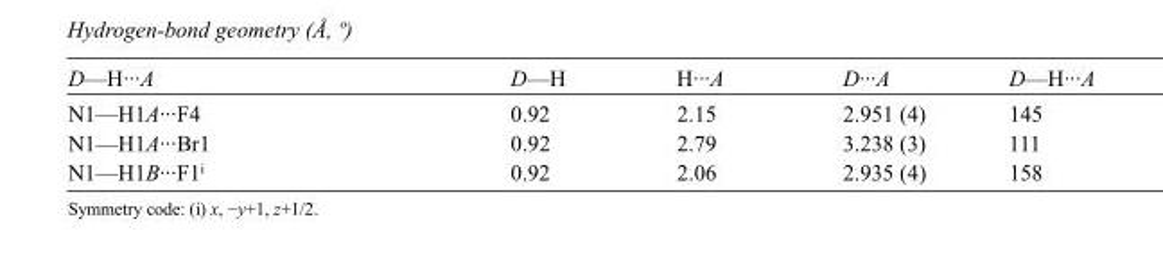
<table><tbody><tr><td>D—H···A</td><td>D—H</td><td>H···A</td><td>D···A</td><td>D—H···A</td></tr><tr><td>N1—H1A···F4</td><td>0.92</td><td>2.15</td><td>2.951 (4)</td><td>145</td></tr><tr><td>N1—H1A···Br1</td><td>0.92</td><td>2.79</td><td>3.238 (3)</td><td>111</td></tr><tr><td>N1—H1B···F1<sup>i</sup></td><td>0.92</td><td>2.06</td><td>2.935 (4)</td><td>158</td></tr></tbody></table>